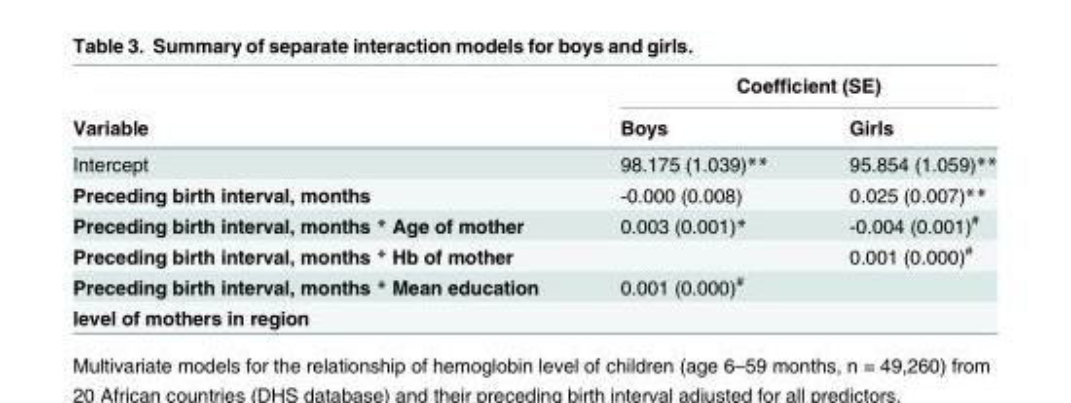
<table><thead><tr><td rowspan="2">Variable</td><td colspan="2">Coefficient (SE)</td></tr><tr><td>Boys</td><td>Girls</td></tr></thead><tbody><tr><td>Intercept</td><td>98.175 (1.039)**</td><td>95.854 (1.059)**</td></tr><tr><td>Preceding birth interval, months</td><td>-0.000 (0.008)</td><td>0.025 (0.007)**</td></tr><tr><td>Preceding birth interval, months * Age of mother</td><td>0.003 (0.001)*</td><td>-0.004 (0.001)<sup>#</sup></td></tr><tr><td>Preceding birth interval, months * Hb of mother</td><td></td><td>0.001 (0.000)<sup>#</sup></td></tr><tr><td>Preceding birth interval, months * Mean education</td><td>0.001 (0.000)<sup>#</sup></td><td></td></tr><tr><td>level of mothers in region</td><td></td><td></td></tr></tbody></table>